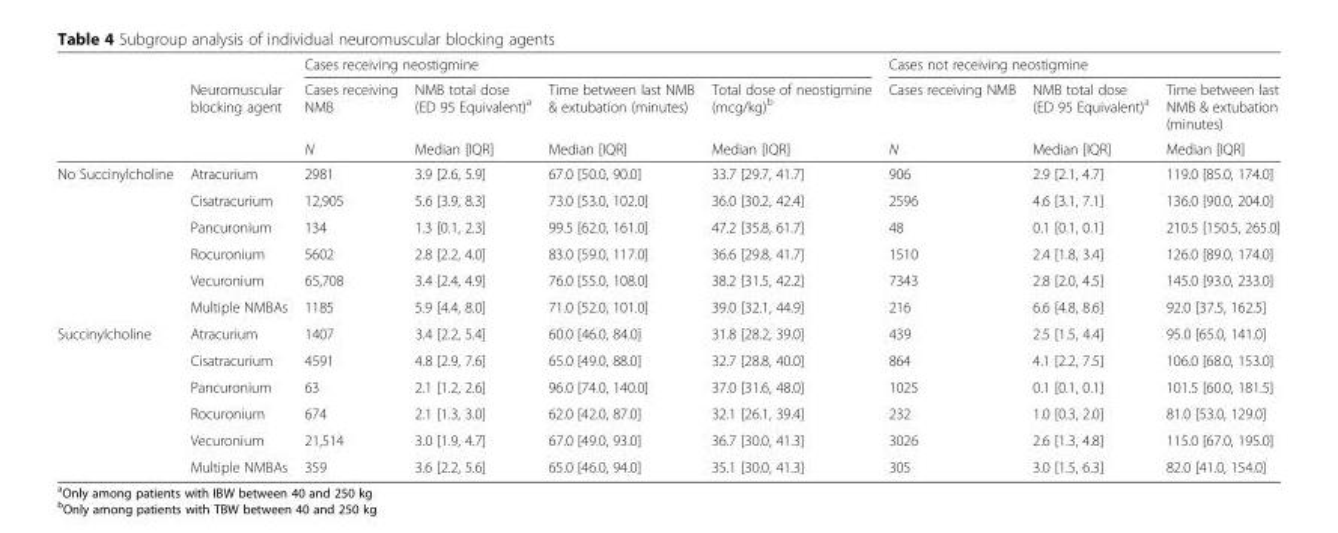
<table><thead><tr><td rowspan="3"></td><td rowspan="3">Neuromuscular blocking agent</td><td colspan="4">Cases receiving neostigmine</td><td colspan="3">Cases not receiving neostigmine</td></tr><tr><td rowspan="2">Cases receiving NMB N</td><td rowspan="2">NMB total dose (ED 95 Equivalent)<sup>a</sup> Median [IQR]</td><td rowspan="2">Time between last NMB &amp; extubation (minutes) Median [IQR]</td><td rowspan="2">Total dose of neostigmine (mcg/kg)<sup>b</sup> Median [IQR]</td><td rowspan="2">Cases receiving NMB N</td><td rowspan="2">NMB total dose (ED 95 Equivalent)<sup>a</sup> Median [IQR]</td><td rowspan="2">Time between last NMB &amp; extubation (minutes) Median [IQR]</td></tr><tr></tr></thead><tbody><tr><td rowspan="6">No Succinylcholine</td><td>Atracurium</td><td>2981</td><td>3.9 [2.6, 5.9]</td><td>67.0 [50.0, 90.0]</td><td>33.7 [29.7, 41.7]</td><td>906</td><td>2.9 [2.1, 4.7]</td><td>119.0 [85.0, 174.0]</td></tr><tr><td>Cisatracurium</td><td>12,905</td><td>5.6 [3.9, 8.3]</td><td>73.0 [53.0, 102.0]</td><td>36.0 [30.2, 42.4]</td><td>2596</td><td>4.6 [3.1, 7.1]</td><td>136.0 [90.0, 204.0]</td></tr><tr><td>Pancuronium</td><td>134</td><td>1.3 [0.1, 2.3]</td><td>99.5 [62.0, 161.0]</td><td>47.2 [35.8, 61.7]</td><td>48</td><td>0.1 [0.1, 0.1]</td><td>210.5 [150.5, 265.0]</td></tr><tr><td>Rocuronium</td><td>5602</td><td>2.8 [2.2, 4.0]</td><td>83.0 [59.0, 117.0]</td><td>36.6 [29.8, 41.7]</td><td>1510</td><td>2.4 [1.8, 3.4]</td><td>126.0 [89.0, 174.0]</td></tr><tr><td>Vecuronium</td><td>65,708</td><td>3.4 [2.4, 4.9]</td><td>76.0 [55.0, 108.0]</td><td>38.2 [31.5, 42.2]</td><td>7343</td><td>2.8 [2.0, 4.5]</td><td>145.0 [93.0, 233.0]</td></tr><tr><td>Multiple NMBAs</td><td>1185</td><td>5.9 [4.4, 8.0]</td><td>71.0 [52.0, 101.0]</td><td>39.0 [32.1, 44.9]</td><td>216</td><td>6.6 [4.8, 8.6]</td><td>92.0 [37.5, 162.5]</td></tr><tr><td rowspan="6">Succinylcholine</td><td>Atracurium</td><td>1407</td><td>3.4 [2.2, 5.4]</td><td>60.0 [46.0, 84.0]</td><td>31.8 [28.2, 39.0]</td><td>439</td><td>2.5 [1.5, 4.4]</td><td>95.0 [65.0, 141.0]</td></tr><tr><td>Cisatracurium</td><td>4591</td><td>4.8 [2.9, 7.6]</td><td>65.0 [49.0, 88.0]</td><td>32.7 [28.8, 40.0]</td><td>864</td><td>4.1 [2.2, 7.5]</td><td>106.0 [68.0, 153.0]</td></tr><tr><td>Pancuronium</td><td>63</td><td>2.1 [1.2, 2.6]</td><td>96.0 [74.0, 140.0]</td><td>37.0 [31.6, 48.0]</td><td>1025</td><td>0.1 [0.1, 0.1]</td><td>101.5 [60.0, 181.5]</td></tr><tr><td>Rocuronium</td><td>674</td><td>2.1 [1.3, 3.0]</td><td>62.0 [42.0, 87.0]</td><td>32.1 [26.1, 39.4]</td><td>232</td><td>1.0 [0.3, 2.0]</td><td>81.0 [53.0, 129.0]</td></tr><tr><td>Vecuronium</td><td>21,514</td><td>3.0 [1.9, 4.7]</td><td>67.0 [49.0, 93.0]</td><td>36.7 [30.0, 41.3]</td><td>3026</td><td>2.6 [1.3, 4.8]</td><td>115.0 [67.0, 195.0]</td></tr><tr><td>Multiple NMBAs</td><td>359</td><td>3.6 [2.2, 5.6]</td><td>65.0 [46.0, 94.0]</td><td>35.1 [30.0, 41.3]</td><td>305</td><td>3.0 [1.5, 6.3]</td><td>82.0 [41.0, 154.0]</td></tr></tbody></table>